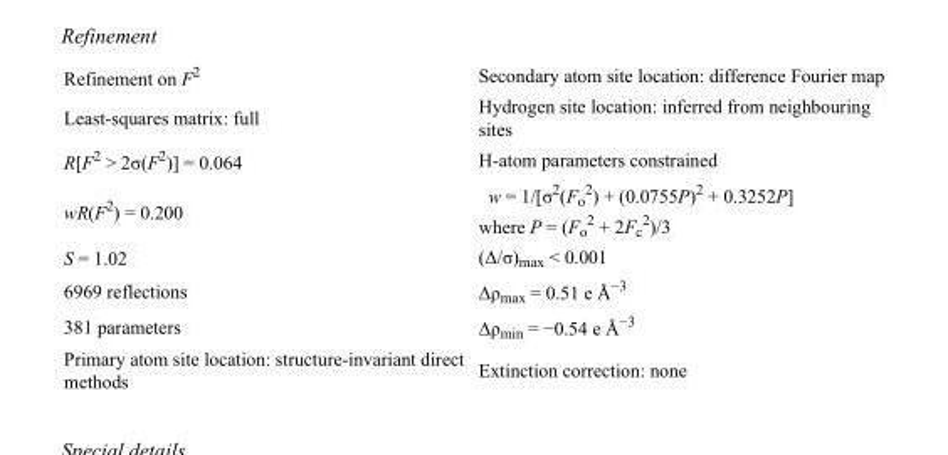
<table><tbody><tr><td>Refinement on F<sup>2</sup></td><td>Secondary atom site location: difference Fourier map</td></tr><tr><td>Least-squares matrix: full</td><td>Hydrogen site location: inferred from neighbouring sites</td></tr><tr><td>R[F<sup>2</sup> &gt; 2σ(F<sup>2</sup>)] = 0.064</td><td>H-atom parameters constrained</td></tr><tr><td>wR(F<sup>2</sup>) = 0.200</td><td>w = 1/[σ<sup>2</sup>(F<sub>o</sub> <sup>2</sup>) + (0.0755P)<sup>2</sup> + 0.3252P] where P = (F<sub>o</sub> <sup>2</sup> + 2F<sub>c</sub> <sup>2</sup>)/3</td></tr><tr><td>S = 1.02</td><td>(Δ/σ)<sub>max</sub> &lt; 0.001</td></tr><tr><td>6969 reflections</td><td>Δρ<sub>max</sub> = 0.51 e Å<sup>−3</sup></td></tr><tr><td>381 parameters</td><td>Δρ<sub>min</sub> = −0.54 e Å<sup>−3</sup></td></tr><tr><td>Primary atom site location: structure-invariant direct methods</td><td>Extinction correction: none</td></tr></tbody></table>